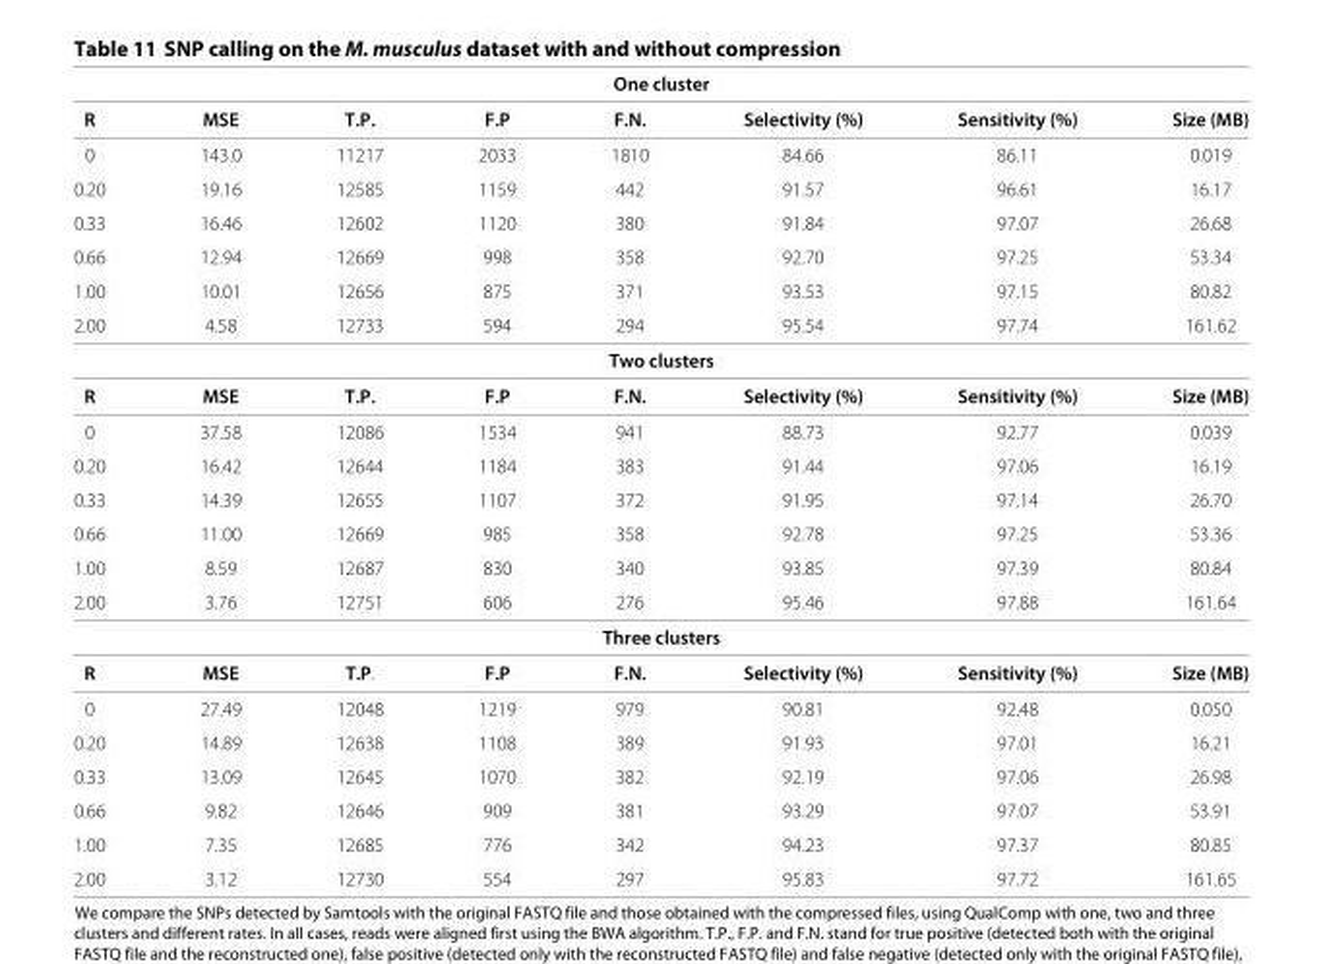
<table><thead><tr><td rowspan="2">R</td><td rowspan="2">MSE</td><td rowspan="2">T.P.</td><td rowspan="2">F.P</td><td rowspan="2">One cluster F.N.</td><td rowspan="2">Selectivity (%)</td><td rowspan="2">Sensitivity (%)</td><td rowspan="2">Size (MB)</td></tr><tr></tr></thead><tbody><tr><td>0</td><td>143.0</td><td>11217</td><td>2033</td><td>1810</td><td>84.66</td><td>86.11</td><td>0.019</td></tr><tr><td>0.20</td><td>19.16</td><td>12585</td><td>1159</td><td>442</td><td>91.57</td><td>96.61</td><td>16.17</td></tr><tr><td>0.33</td><td>16.46</td><td>12602</td><td>1120</td><td>380</td><td>91.84</td><td>97.07</td><td>26.68</td></tr><tr><td>0.66</td><td>12.94</td><td>12669</td><td>998</td><td>358</td><td>92.70</td><td>97.25</td><td>53.34</td></tr><tr><td>1.00</td><td>10.01</td><td>12656</td><td>875</td><td>371</td><td>93.53</td><td>97.15</td><td>80.82</td></tr><tr><td rowspan="2">2.00</td><td>4.58</td><td>12733</td><td>594</td><td>294</td><td>95.54</td><td>97.74</td><td>161.62</td></tr><tr><td></td><td></td><td></td><td>Two clusters</td><td></td><td></td><td></td></tr><tr><td>R</td><td>MSE</td><td>T.P.</td><td>F.P</td><td>F.N.</td><td>Selectivity (%)</td><td>Sensitivity (%)</td><td>Size (MB)</td></tr><tr><td>0</td><td>37.58</td><td>12086</td><td>1534</td><td>941</td><td>88.73</td><td>92.77</td><td>0.039</td></tr><tr><td>0.20</td><td>16.42</td><td>12644</td><td>1184</td><td>383</td><td>91.44</td><td>97.06</td><td>16.19</td></tr><tr><td>0.33</td><td>14.39</td><td>12655</td><td>1107</td><td>372</td><td>91.95</td><td>97.14</td><td>26.70</td></tr><tr><td>0.66</td><td>11.00</td><td>12669</td><td>985</td><td>358</td><td>92.78</td><td>97.25</td><td>53.36</td></tr><tr><td>1.00</td><td>8.59</td><td>12687</td><td>830</td><td>340</td><td>93.85</td><td>97.39</td><td>80.84</td></tr><tr><td rowspan="2">2.00</td><td>3.76</td><td>12751</td><td>606</td><td>276</td><td>95.46</td><td>97.88</td><td>161.64</td></tr><tr><td></td><td></td><td></td><td>Three clusters</td><td></td><td></td><td></td></tr><tr><td>R</td><td>MSE</td><td>T.P.</td><td>F.P</td><td>F.N.</td><td>Selectivity (%)</td><td>Sensitivity (%)</td><td>Size (MB)</td></tr><tr><td>0</td><td>27.49</td><td>12048</td><td>1219</td><td>979</td><td>90.81</td><td>92.48</td><td>0.050</td></tr><tr><td>0.20</td><td>14.89</td><td>12638</td><td>1108</td><td>389</td><td>91.93</td><td>97.01</td><td>16.21</td></tr><tr><td>0.33</td><td>13.09</td><td>12645</td><td>1070</td><td>382</td><td>92.19</td><td>97.06</td><td>26.98</td></tr><tr><td>0.66</td><td>9.82</td><td>12646</td><td>909</td><td>381</td><td>93.29</td><td>97.07</td><td>53.91</td></tr><tr><td>1.00</td><td>7.35</td><td>12685</td><td>776</td><td>342</td><td>94.23</td><td>97.37</td><td>80.85</td></tr><tr><td>2.00</td><td>3.12</td><td>12730</td><td>554</td><td>297</td><td>95.83</td><td>97.72</td><td>161.65</td></tr></tbody></table>